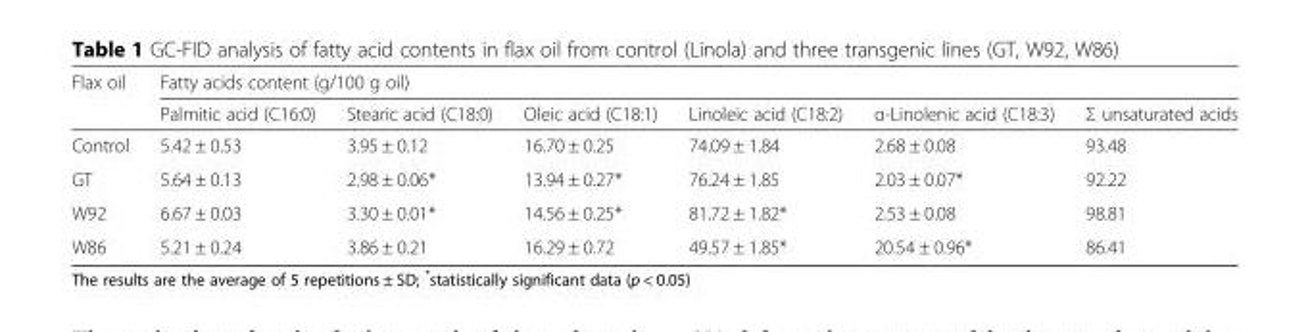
<table><thead><tr><td rowspan="2">Flax oil</td><td colspan="6">Fatty acids content (g/100 g oil)</td></tr><tr><td>Palmitic acid (C16:0)</td><td>Stearic acid (C18:0)</td><td>Oleic acid (C18:1)</td><td>Linoleic acid (C18:2)</td><td>α-Linolenic acid (C18:3)</td><td>Σ unsaturated acids</td></tr></thead><tbody><tr><td>Control</td><td>5.42 ± 0.53</td><td>3.95 ± 0.12</td><td>16.70 ± 0.25</td><td>74.09 ± 1.84</td><td>2.68 ± 0.08</td><td>93.48</td></tr><tr><td>GT</td><td>5.64 ± 0.13</td><td>2.98 ± 0.06*</td><td>13.94 ± 0.27*</td><td>76.24 ± 1.85</td><td>2.03 ± 0.07*</td><td>92.22</td></tr><tr><td>W92</td><td>6.67 ± 0.03</td><td>3.30 ± 0.01*</td><td>14.56 ± 0.25*</td><td>81.72 ± 1.82*</td><td>2.53 ± 0.08</td><td>98.81</td></tr><tr><td>W86</td><td>5.21 ± 0.24</td><td>3.86 ± 0.21</td><td>16.29 ± 0.72</td><td>49.57 ± 1.85*</td><td>20.54 ± 0.96*</td><td>86.41</td></tr></tbody></table>